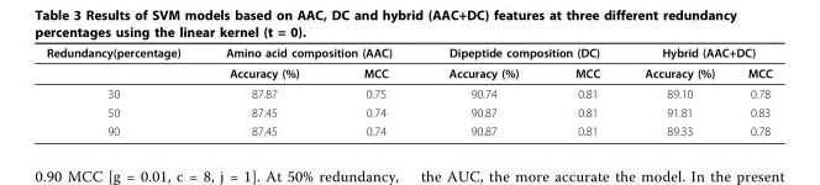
<table><thead><tr><td rowspan="2">Redundancy(percentage)</td><td colspan="2">Amino acid composition (AAC)</td><td colspan="2">Dipeptide composition (DC)</td><td colspan="2">Hybrid (AAC+DC)</td></tr><tr><td>Accuracy (%)</td><td>MCC</td><td>Accuracy (%)</td><td>MCC</td><td>Accuracy (%)</td><td>MCC</td></tr></thead><tbody><tr><td>30</td><td>87.87</td><td>0.75</td><td>90.74</td><td>0.81</td><td>89.10</td><td>0.78</td></tr><tr><td>50</td><td>87.45</td><td>0.74</td><td>90.87</td><td>0.81</td><td>91.81</td><td>0.83</td></tr><tr><td>90</td><td>87.45</td><td>0.74</td><td>90.87</td><td>0.81</td><td>89.33</td><td>0.78</td></tr></tbody></table>